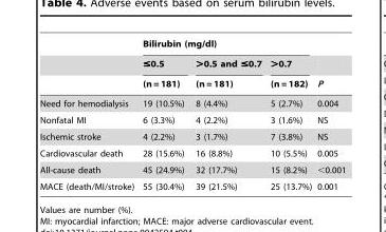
<table><thead><tr><td rowspan="3"></td><td colspan="3">Bilirubin (mg/dl)</td><td rowspan="3">P</td></tr><tr><td rowspan="2">≤0.5 (n = 181)</td><td rowspan="2">&gt;0.5 and ≤0.7 (n = 181)</td><td rowspan="2">&gt;0.7 (n = 182)</td></tr><tr></tr></thead><tbody><tr><td>Need for hemodialysis</td><td>19 (10.5%)</td><td>8 (4.4%)</td><td>5 (2.7%)</td><td>0.004</td></tr><tr><td>Nonfatal MI</td><td>6 (3.3%)</td><td>4 (2.2%)</td><td>3 (1.6%)</td><td>NS</td></tr><tr><td>Ischemic stroke</td><td>4 (2.2%)</td><td>3 (1.7%)</td><td>7 (3.8%)</td><td>NS</td></tr><tr><td>Cardiovascular death</td><td>28 (15.6%)</td><td>16 (8.8%)</td><td>10 (5.5%)</td><td>0.005</td></tr><tr><td>All-cause death</td><td>45 (24.9%)</td><td>32 (17.7%)</td><td>15 (8.2%)</td><td>&lt;0.001</td></tr><tr><td>MACE (death/MI/stroke)</td><td>55 (30.4%)</td><td>39 (21.5%)</td><td>25 (13.7%)</td><td>0.001</td></tr></tbody></table>